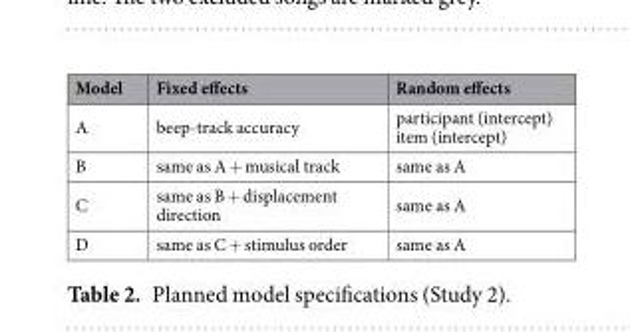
<table><thead><tr><td>Model</td><td>Fixed effects</td><td>Random effects</td></tr></thead><tbody><tr><td>A</td><td>beep-track accuracy</td><td>participant (intercept) item (intercept)</td></tr><tr><td>B</td><td>same as A + musical track</td><td>same as A</td></tr><tr><td>C</td><td>same as B + displacement direction</td><td>same as A</td></tr><tr><td>D</td><td>same as C + stimulus order</td><td>same as A</td></tr></tbody></table>